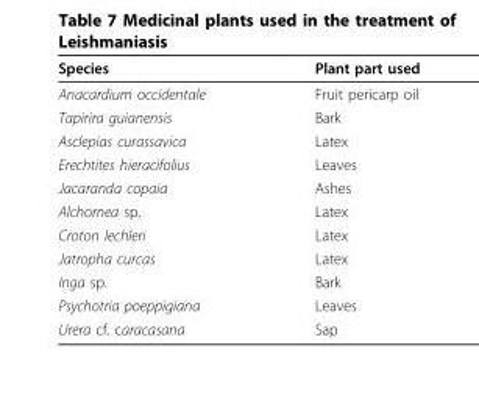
<table><thead><tr><td>Species</td><td>Plant part used</td></tr></thead><tbody><tr><td>Anacardium occidentale</td><td>Fruit pericarp oil</td></tr><tr><td>Tapirira guianensis</td><td>Bark</td></tr><tr><td>Asclepias curassavica</td><td>Latex</td></tr><tr><td>Erechtites hieracifolius</td><td>Leaves</td></tr><tr><td>Jacaranda copaia</td><td>Ashes</td></tr><tr><td>Alchornea sp.</td><td>Latex</td></tr><tr><td>Croton lechleri</td><td>Latex</td></tr><tr><td>Jatropha curcas</td><td>Latex</td></tr><tr><td>Inga sp.</td><td>Bark</td></tr><tr><td>Psychotria poeppigiana</td><td>Leaves</td></tr><tr><td>Urera cf. caracasana</td><td>Sap</td></tr></tbody></table>